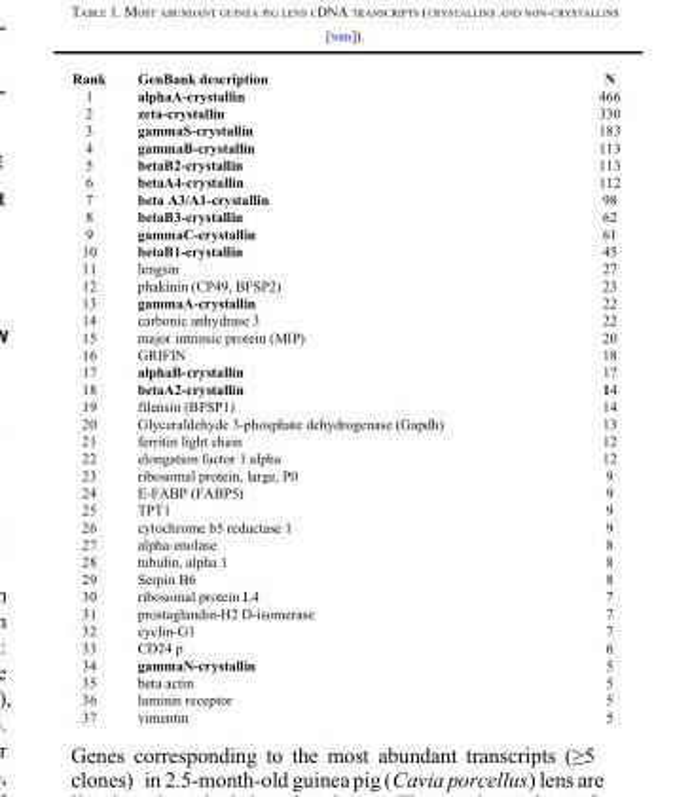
<table><thead><tr><td>Rank</td><td>GenBank description</td><td>N</td></tr></thead><tbody><tr><td>1</td><td>alphaA-crystallin</td><td>466</td></tr><tr><td>2</td><td>zeta-crystallin</td><td>330</td></tr><tr><td>3</td><td>gammaS-crystallin</td><td>183</td></tr><tr><td>4</td><td>gammaB-crystallin</td><td>113</td></tr><tr><td>5</td><td>betaB2-crystallin</td><td>113</td></tr><tr><td>6</td><td>betaA4-crystallin</td><td>112</td></tr><tr><td>7</td><td>beta A3/A1-crystallin</td><td>98</td></tr><tr><td>8</td><td>betaB3-crystallin</td><td>62</td></tr><tr><td>9</td><td>gammaC-crystallin</td><td>61</td></tr><tr><td>10</td><td>betaB1-crystallin</td><td>45</td></tr><tr><td>11</td><td>lengsin</td><td>27</td></tr><tr><td>12</td><td>phakinin (CP49, BFSP2)</td><td>23</td></tr><tr><td>13</td><td>gammaA-crystallin</td><td>22</td></tr><tr><td>14</td><td>carbonic anhydrase 3</td><td>22</td></tr><tr><td>15</td><td>major intrinsic protein (MIP)</td><td>20</td></tr><tr><td>16</td><td>GRIFIN</td><td>18</td></tr><tr><td>17</td><td>alphaB-crystallin</td><td>17</td></tr><tr><td>18</td><td>betaA2-crystallin</td><td>14</td></tr><tr><td>19</td><td>filensin (BFSP1)</td><td>14</td></tr><tr><td>20</td><td>Glyceraldehyde 3-phosphate dehydrogenase (Gapdh)</td><td>13</td></tr><tr><td>21</td><td>ferritin light chain</td><td>12</td></tr><tr><td>22</td><td>elongation factor 1 alpha</td><td>12</td></tr><tr><td>23</td><td>ribosomal protein, large, P0</td><td>9</td></tr><tr><td>24</td><td>E-FABP (FABP5)</td><td>9</td></tr><tr><td>25</td><td>TPT1</td><td>9</td></tr><tr><td>26</td><td>cytochrome b5 reductase 1</td><td>9</td></tr><tr><td>27</td><td>alpha-enolase</td><td>8</td></tr><tr><td>28</td><td>tubulin, alpha 1</td><td>8</td></tr><tr><td>29</td><td>Serpin B6</td><td>8</td></tr><tr><td>30</td><td>ribosomal protein L4</td><td>7</td></tr><tr><td>31</td><td>prostaglandin-H2 D-isomerase</td><td>7</td></tr><tr><td>32</td><td>cyclin-G1</td><td>7</td></tr><tr><td>33</td><td>CD24 p</td><td>6</td></tr><tr><td>34</td><td>gammaN-crystallin</td><td>5</td></tr><tr><td>35</td><td>beta actin</td><td>5</td></tr><tr><td>36</td><td>laminin receptor</td><td>5</td></tr><tr><td>37</td><td>vimentin</td><td>5</td></tr></tbody></table>